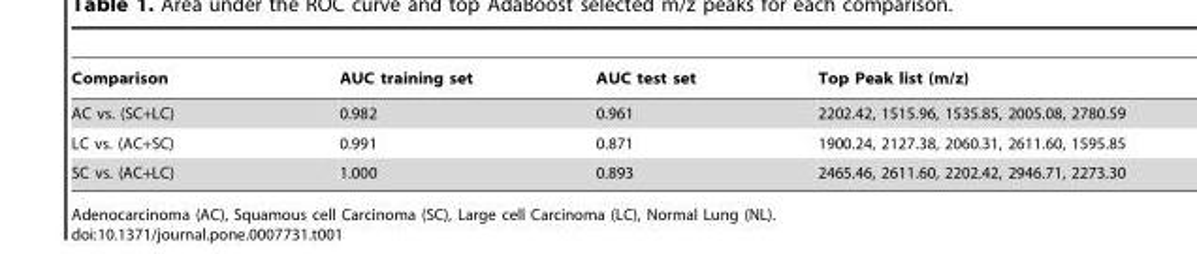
<table><thead><tr><td>Comparison</td><td>AUC training set</td><td>AUC test set</td><td>Top Peak list (m/z)</td></tr></thead><tbody><tr><td>AC vs. (SC+LC)</td><td>0.982</td><td>0.961</td><td>2202.42, 1515.96, 1535.85, 2005.08, 2780.59</td></tr><tr><td>LC vs. (AC+SC)</td><td>0.991</td><td>0.871</td><td>1900.24, 2127.38, 2060.31, 2611.60, 1595.85</td></tr><tr><td>SC vs. (AC+LC)</td><td>1.000</td><td>0.893</td><td>2465.46, 2611.60, 2202.42, 2946.71, 2273.30</td></tr></tbody></table>